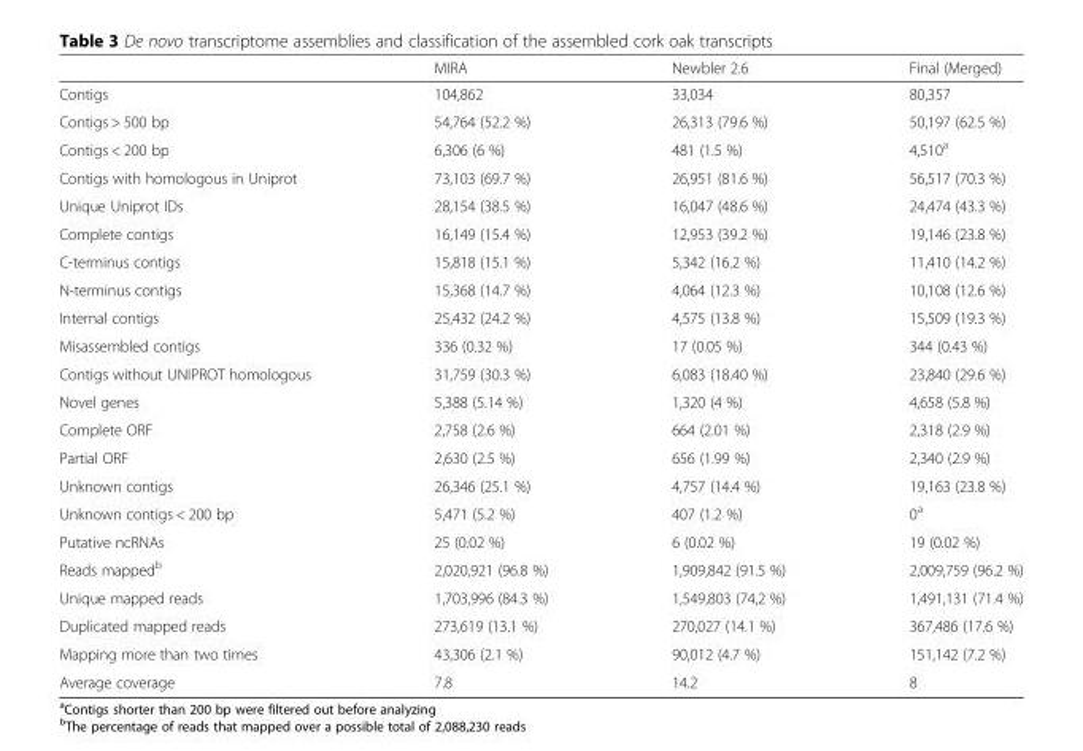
<table><thead><tr><td></td><td>MIRA</td><td>Newbler 2.6</td><td>Final (Merged)</td></tr></thead><tbody><tr><td>Contigs</td><td>104,862</td><td>33,034</td><td>80,357</td></tr><tr><td>Contigs &gt; 500 bp</td><td>54,764 (52.2 %)</td><td>26,313 (79.6 %)</td><td>50,197 (62.5 %)</td></tr><tr><td>Contigs &lt; 200 bp</td><td>6,306 (6 %)</td><td>481 (1.5 %)</td><td>4,510<sup>a</sup></td></tr><tr><td>Contigs with homologous in Uniprot</td><td>73,103 (69.7 %)</td><td>26,951 (81.6 %)</td><td>56,517 (70.3 %)</td></tr><tr><td>Unique Uniprot IDs</td><td>28,154 (38.5 %)</td><td>16,047 (48.6 %)</td><td>24,474 (43.3 %)</td></tr><tr><td>Complete contigs</td><td>16,149 (15.4 %)</td><td>12,953 (39.2 %)</td><td>19,146 (23.8 %)</td></tr><tr><td>C-terminus contigs</td><td>15,818 (15.1 %)</td><td>5,342 (16.2 %)</td><td>11,410 (14.2 %)</td></tr><tr><td>N-terminus contigs</td><td>15,368 (14.7 %)</td><td>4,064 (12.3 %)</td><td>10,108 (12.6 %)</td></tr><tr><td>Internal contigs</td><td>25,432 (24.2 %)</td><td>4,575 (13.8 %)</td><td>15,509 (19.3 %)</td></tr><tr><td>Misassembled contigs</td><td>336 (0.32 %)</td><td>17 (0.05 %)</td><td>344 (0.43 %)</td></tr><tr><td>Contigs without UNIPROT homologous</td><td>31,759 (30.3 %)</td><td>6,083 (18.40 %)</td><td>23,840 (29.6 %)</td></tr><tr><td>Novel genes</td><td>5,388 (5.14 %)</td><td>1,320 (4 %)</td><td>4,658 (5.8 %)</td></tr><tr><td>Complete ORF</td><td>2,758 (2.6 %)</td><td>664 (2.01 %)</td><td>2,318 (2.9 %)</td></tr><tr><td>Partial ORF</td><td>2,630 (2.5 %)</td><td>656 (1.99 %)</td><td>2,340 (2.9 %)</td></tr><tr><td>Unknown contigs</td><td>26,346 (25.1 %)</td><td>4,757 (14.4 %)</td><td>19,163 (23.8 %)</td></tr><tr><td>Unknown contigs &lt; 200 bp</td><td>5,471 (5.2 %)</td><td>407 (1.2 %)</td><td>0<sup>a</sup></td></tr><tr><td>Putative ncRNAs</td><td>25 (0.02 %)</td><td>6 (0.02 %)</td><td>19 (0.02 %)</td></tr><tr><td>Reads mapped<sup>b</sup></td><td>2,020,921 (96.8 %)</td><td>1,909,842 (91.5 %)</td><td>2,009,759 (96.2 %)</td></tr><tr><td>Unique mapped reads</td><td>1,703,996 (84.3 %)</td><td>1,549,803 (74,2 %)</td><td>1,491,131 (71.4 %)</td></tr><tr><td>Duplicated mapped reads</td><td>273,619 (13.1 %)</td><td>270,027 (14.1 %)</td><td>367,486 (17.6 %)</td></tr><tr><td>Mapping more than two times</td><td>43,306 (2.1 %)</td><td>90,012 (4.7 %)</td><td>151,142 (7.2 %)</td></tr><tr><td>Average coverage</td><td>7.8</td><td>14.2</td><td>8</td></tr></tbody></table>